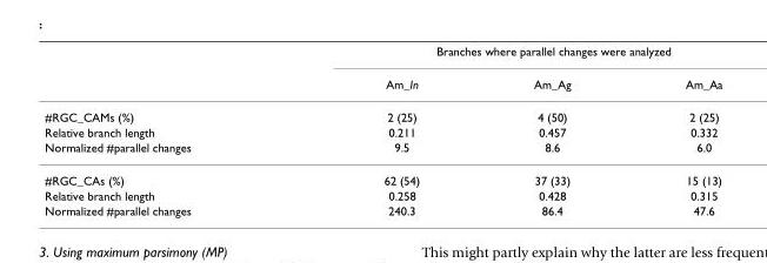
<table><thead><tr><td rowspan="2"></td><td colspan="3">Branches where parallel changes were analyzed</td></tr><tr><td>Am_In</td><td>Am_Ag</td><td>Am_Aa</td></tr></thead><tbody><tr><td>#RGC_CAMs (%)</td><td>2 (25)</td><td>4 (50)</td><td>2 (25)</td></tr><tr><td>Relative branch length</td><td>0.211</td><td>0.457</td><td>0.332</td></tr><tr><td>Normalized #parallel changes</td><td>9.5</td><td>8.6</td><td>6.0</td></tr><tr><td>#RGC_CAs (%)</td><td>62 (54)</td><td>37 (33)</td><td>15 (13)</td></tr><tr><td>Relative branch length</td><td>0.258</td><td>0.428</td><td>0.315</td></tr><tr><td>Normalized #parallel changes</td><td>240.3</td><td>86.4</td><td>47.6</td></tr></tbody></table>